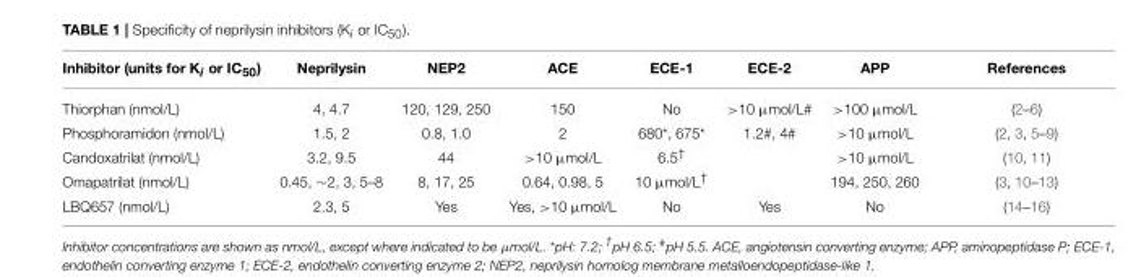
<table><thead><tr><td>Inhibitor (units for K<sub>i</sub> or IC<sub>50</sub>)</td><td>Neprilysin</td><td>NEP2</td><td>ACE</td><td>ECE-1</td><td>ECE-2</td><td>APP</td><td>References</td></tr></thead><tbody><tr><td>Thiorphan (nmol/L)</td><td>4, 4.7</td><td>120, 129, 250</td><td>150</td><td>No</td><td>&gt;10 µmol/L<sup>#</sup></td><td>&gt;100 µmol/L</td><td>(2–6)</td></tr><tr><td>Phosphoramidon (nmol/L)</td><td>1.5, 2</td><td>0.8, 1.0</td><td>2</td><td>680*, 675*</td><td>1.2<sup>#</sup>, 4<sup>#</sup></td><td>&gt;10 µmol/L</td><td>(2, 3, 5–9)</td></tr><tr><td>Candoxatrilat (nmol/L)</td><td>3.2, 9.5</td><td>44</td><td>&gt;10 µmol/L</td><td>6.5<sup>†</sup></td><td></td><td>&gt;10 µmol/L</td><td>(10, 11)</td></tr><tr><td>Omapatrilat (nmol/L)</td><td>0.45, ∼2, 3, 5–8</td><td>8, 17, 25</td><td>0.64, 0.98, 5</td><td>10 µmol/L<sup>†</sup></td><td></td><td>194, 250, 260</td><td>(3, 10–13)</td></tr><tr><td>LBQ657 (nmol/L)</td><td>2.3, 5</td><td>Yes</td><td>Yes, &gt;10 µmol/L</td><td>No</td><td>Yes</td><td>No</td><td>(14–16)</td></tr></tbody></table>